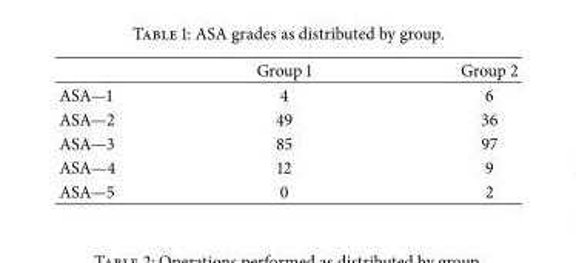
<table><thead><tr><td></td><td>Group 1</td><td>Group 2</td></tr></thead><tbody><tr><td>ASA—1</td><td>4</td><td>6</td></tr><tr><td>ASA—2</td><td>49</td><td>36</td></tr><tr><td>ASA—3</td><td>85</td><td>97</td></tr><tr><td>ASA—4</td><td>12</td><td>9</td></tr><tr><td>ASA—5</td><td>0</td><td>2</td></tr></tbody></table>